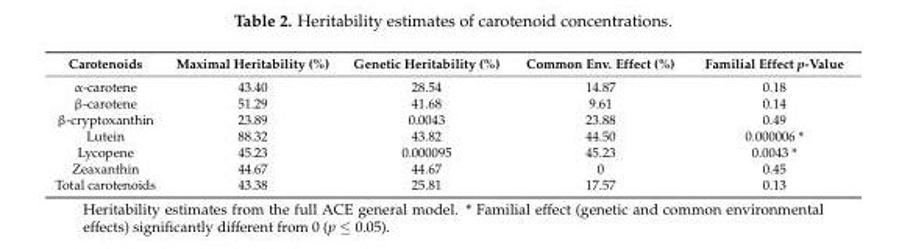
<table><thead><tr><td>Carotenoids</td><td>Maximal Heritability (%)</td><td>Genetic Heritability (%)</td><td>Common Env. Effect (%)</td><td>Familial Effect p-Value</td></tr></thead><tbody><tr><td>α-carotene</td><td>43.40</td><td>28.54</td><td>14.87</td><td>0.18</td></tr><tr><td>β-carotene</td><td>51.29</td><td>41.68</td><td>9.61</td><td>0.14</td></tr><tr><td>β-cryptoxanthin</td><td>23.89</td><td>0.0043</td><td>23.88</td><td>0.49</td></tr><tr><td>Lutein</td><td>88.32</td><td>43.82</td><td>44.50</td><td>0.000006 *</td></tr><tr><td>Lycopene</td><td>45.23</td><td>0.000095</td><td>45.23</td><td>0.0043 *</td></tr><tr><td>Zeaxanthin</td><td>44.67</td><td>44.67</td><td>0</td><td>0.45</td></tr><tr><td>Total carotenoids</td><td>43.38</td><td>25.81</td><td>17.57</td><td>0.13</td></tr></tbody></table>